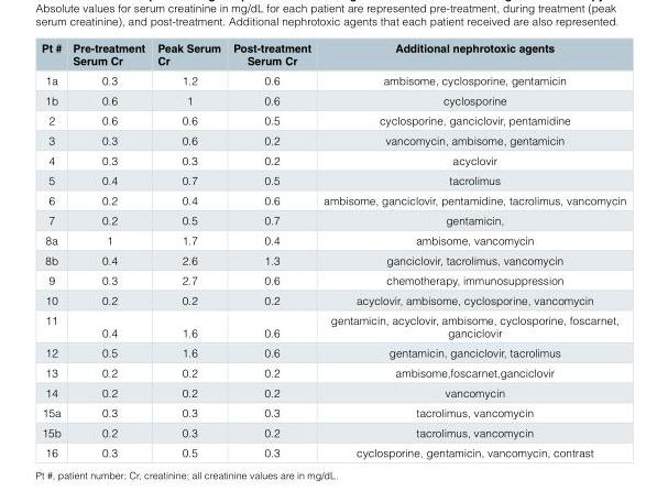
<table><thead><tr><td>Pt #</td><td>Pre-treatment Serum Cr</td><td>Peak Serum Cr</td><td>Post-treatment Serum Cr</td><td>Additional nephrotoxic agents</td></tr></thead><tbody><tr><td>1a</td><td>0.3</td><td>1.2</td><td>0.6</td><td>ambisome, cyclosporine, gentamicin</td></tr><tr><td>1b</td><td>0.6</td><td>1</td><td>0.6</td><td>cyclosporine</td></tr><tr><td>2</td><td>0.6</td><td>0.6</td><td>0.5</td><td>cyclosporine, ganciclovir, pentamidine</td></tr><tr><td>3</td><td>0.3</td><td>0.6</td><td>0.2</td><td>vancomycin, ambisome, gentamicin</td></tr><tr><td>4</td><td>0.3</td><td>0.3</td><td>0.2</td><td>acyclovir</td></tr><tr><td>5</td><td>0.4</td><td>0.7</td><td>0.5</td><td>tacrolimus</td></tr><tr><td>6</td><td>0.2</td><td>0.4</td><td>0.6</td><td>ambisome, ganciclovir, pentamidine, tacrolimus, vancomycin</td></tr><tr><td>7</td><td>0.2</td><td>0.5</td><td>0.7</td><td>gentamicin,</td></tr><tr><td>8a</td><td>1</td><td>1.7</td><td>0.4</td><td>ambisome, vancomycin</td></tr><tr><td>8b</td><td>0.4</td><td>2.6</td><td>1.3</td><td>ganciclovir, tacrolimus, vancomycin</td></tr><tr><td>9</td><td>0.3</td><td>2.7</td><td>0.6</td><td>chemotherapy, immunosuppression</td></tr><tr><td>10</td><td>0.2</td><td>0.2</td><td>0.2</td><td>acyclovir, ambisome, cyclosporine, vancomycin</td></tr><tr><td>11</td><td>0.4</td><td>1.6</td><td>0.6</td><td>gentamicin, acyclovir, ambisome, cyclosporine, foscarnet, ganciclovir</td></tr><tr><td>12</td><td>0.5</td><td>1.6</td><td>0.6</td><td>gentamicin, ganciclovir, tacrolimus</td></tr><tr><td>13</td><td>0.2</td><td>0.2</td><td>0.2</td><td>ambisome,foscarnet,ganciclovir</td></tr><tr><td>14</td><td>0.2</td><td>0.2</td><td>0.2</td><td>vancomycin</td></tr><tr><td>15a</td><td>0.3</td><td>0.3</td><td>0.3</td><td>tacrolimus, vancomycin</td></tr><tr><td>15b</td><td>0.2</td><td>0.3</td><td>0.2</td><td>tacrolimus, vancomycin</td></tr><tr><td>16</td><td>0.3</td><td>0.5</td><td>0.3</td><td>cyclosporine, gentamicin, vancomycin, contrast</td></tr></tbody></table>